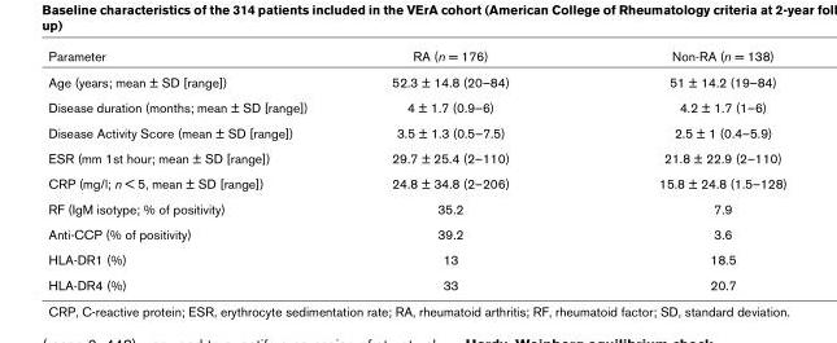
<table><thead><tr><td>Parameter</td><td>RA (n = 176)</td><td>Non-RA (n = 138)</td></tr></thead><tbody><tr><td>Age (years; mean ± SD [range])</td><td>52.3 ± 14.8 (20–84)</td><td>51 ± 14.2 (19–84)</td></tr><tr><td>Disease duration (months; mean ± SD [range])</td><td>4 ± 1.7 (0.9–6)</td><td>4.2 ± 1.7 (1–6)</td></tr><tr><td>Disease Activity Score (mean ± SD [range])</td><td>3.5 ± 1.3 (0.5–7.5)</td><td>2.5 ± 1 (0.4–5.9)</td></tr><tr><td>ESR (mm 1st hour; mean ± SD [range])</td><td>29.7 ± 25.4 (2–110)</td><td>21.8 ± 22.9 (2–110)</td></tr><tr><td>CRP (mg/l; n &lt; 5, mean ± SD [range])</td><td>24.8 ± 34.8 (2–206)</td><td>15.8 ± 24.8 (1.5–128)</td></tr><tr><td>RF (IgM isotype; % of positivity)</td><td>35.2</td><td>7.9</td></tr><tr><td>Anti-CCP (% of positivity)</td><td>39.2</td><td>3.6</td></tr><tr><td>HLA-DR1 (%)</td><td>13</td><td>18.5</td></tr><tr><td>HLA-DR4 (%)</td><td>33</td><td>20.7</td></tr></tbody></table>